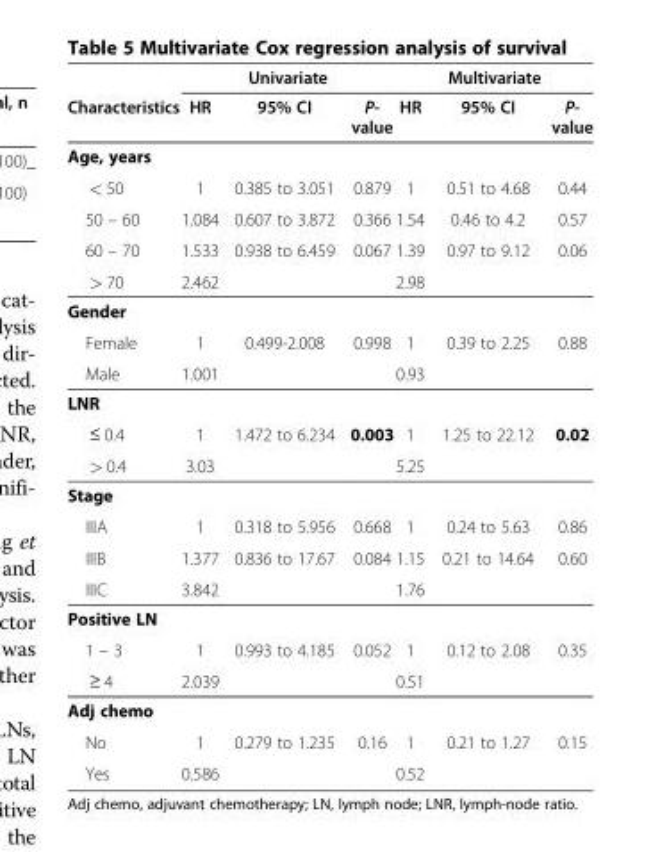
<table><thead><tr><td rowspan="2">Characteristics</td><td colspan="3">Univariate</td><td colspan="3">Multivariate</td></tr><tr><td>HR</td><td>95% CI</td><td>P- value</td><td>HR</td><td>95% CI</td><td>P- value</td></tr></thead><tbody><tr><td colspan="7">Age, years</td></tr><tr><td>&lt; 50</td><td>1</td><td>0.385 to 3.051</td><td>0.879</td><td>1</td><td>0.51 to 4.68</td><td>0.44</td></tr><tr><td>50 – 60</td><td>1.084</td><td>0.607 to 3.872</td><td>0.366</td><td>1.54</td><td>0.46 to 4.2</td><td>0.57</td></tr><tr><td>60 – 70</td><td>1.533</td><td>0.938 to 6.459</td><td>0.067</td><td>1.39</td><td>0.97 to 9.12</td><td>0.06</td></tr><tr><td>&gt; 70</td><td>2.462</td><td></td><td></td><td>2.98</td><td></td><td></td></tr><tr><td colspan="7">Gender</td></tr><tr><td>Female</td><td>1</td><td>0.499-2.008</td><td>0.998</td><td>1</td><td>0.39 to 2.25</td><td>0.88</td></tr><tr><td>Male</td><td>1.001</td><td></td><td></td><td>0.93</td><td></td><td></td></tr><tr><td colspan="7">LNR</td></tr><tr><td>≤ 0.4</td><td>1</td><td>1.472 to 6.234</td><td>0.003</td><td>1</td><td>1.25 to 22.12</td><td>0.02</td></tr><tr><td>&gt; 0.4</td><td>3.03</td><td></td><td></td><td>5.25</td><td></td><td></td></tr><tr><td colspan="7">Stage</td></tr><tr><td>IIIA</td><td>1</td><td>0.318 to 5.956</td><td>0.668</td><td>1</td><td>0.24 to 5.63</td><td>0.86</td></tr><tr><td>IIIB</td><td>1.377</td><td>0.836 to 17.67</td><td>0.084</td><td>1.15</td><td>0.21 to 14.64</td><td>0.60</td></tr><tr><td>IIIC</td><td>3.842</td><td></td><td></td><td>1.76</td><td></td><td></td></tr><tr><td colspan="7">Positive LN</td></tr><tr><td>1 – 3</td><td>1</td><td>0.993 to 4.185</td><td>0.052</td><td>1</td><td>0.12 to 2.08</td><td>0.35</td></tr><tr><td>≥ 4</td><td>2.039</td><td></td><td></td><td>0.51</td><td></td><td></td></tr><tr><td colspan="7">Adj chemo</td></tr><tr><td>No</td><td>1</td><td>0.279 to 1.235</td><td>0.16</td><td>1</td><td>0.21 to 1.27</td><td>0.15</td></tr><tr><td>Yes</td><td>0.586</td><td></td><td></td><td>0.52</td><td></td><td></td></tr></tbody></table>